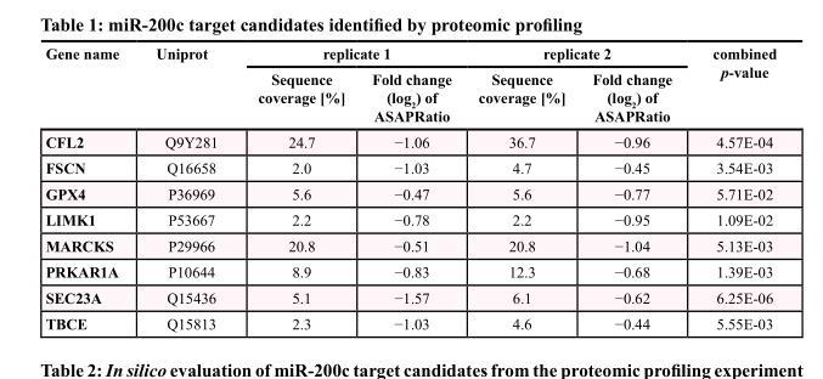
<table><thead><tr><td rowspan="2">Gene name</td><td rowspan="2">Uniprot</td><td colspan="2">replicate 1</td><td colspan="2">replicate 2</td><td rowspan="2">combined p-value</td></tr><tr><td>Sequence coverage [%]</td><td>Fold change (log<sub>2</sub>) of ASAPRatio</td><td>Sequence coverage [%]</td><td>Fold change (log<sub>2</sub>) of ASAPRatio</td></tr></thead><tbody><tr><td>CFL2</td><td>Q9Y281</td><td>24.7</td><td>−1.06</td><td>36.7</td><td>−0.96</td><td>4.57E-04</td></tr><tr><td>FSCN</td><td>Q16658</td><td>2.0</td><td>−1.03</td><td>4.7</td><td>−0.45</td><td>3.54E-03</td></tr><tr><td>GPX4</td><td>P36969</td><td>5.6</td><td>−0.47</td><td>5.6</td><td>−0.77</td><td>5.71E-02</td></tr><tr><td>LIMK1</td><td>P53667</td><td>2.2</td><td>−0.78</td><td>2.2</td><td>−0.95</td><td>1.09E-02</td></tr><tr><td>MARCKS</td><td>P29966</td><td>20.8</td><td>−0.51</td><td>20.8</td><td>−1.04</td><td>5.13E-03</td></tr><tr><td>PRKAR1A</td><td>P10644</td><td>8.9</td><td>−0.83</td><td>12.3</td><td>−0.68</td><td>1.39E-03</td></tr><tr><td>SEC23A</td><td>Q15436</td><td>5.1</td><td>−1.57</td><td>6.1</td><td>−0.62</td><td>6.25E-06</td></tr><tr><td>TBCE</td><td>Q15813</td><td>2.3</td><td>−1.03</td><td>4.6</td><td>−0.44</td><td>5.55E-03</td></tr></tbody></table>